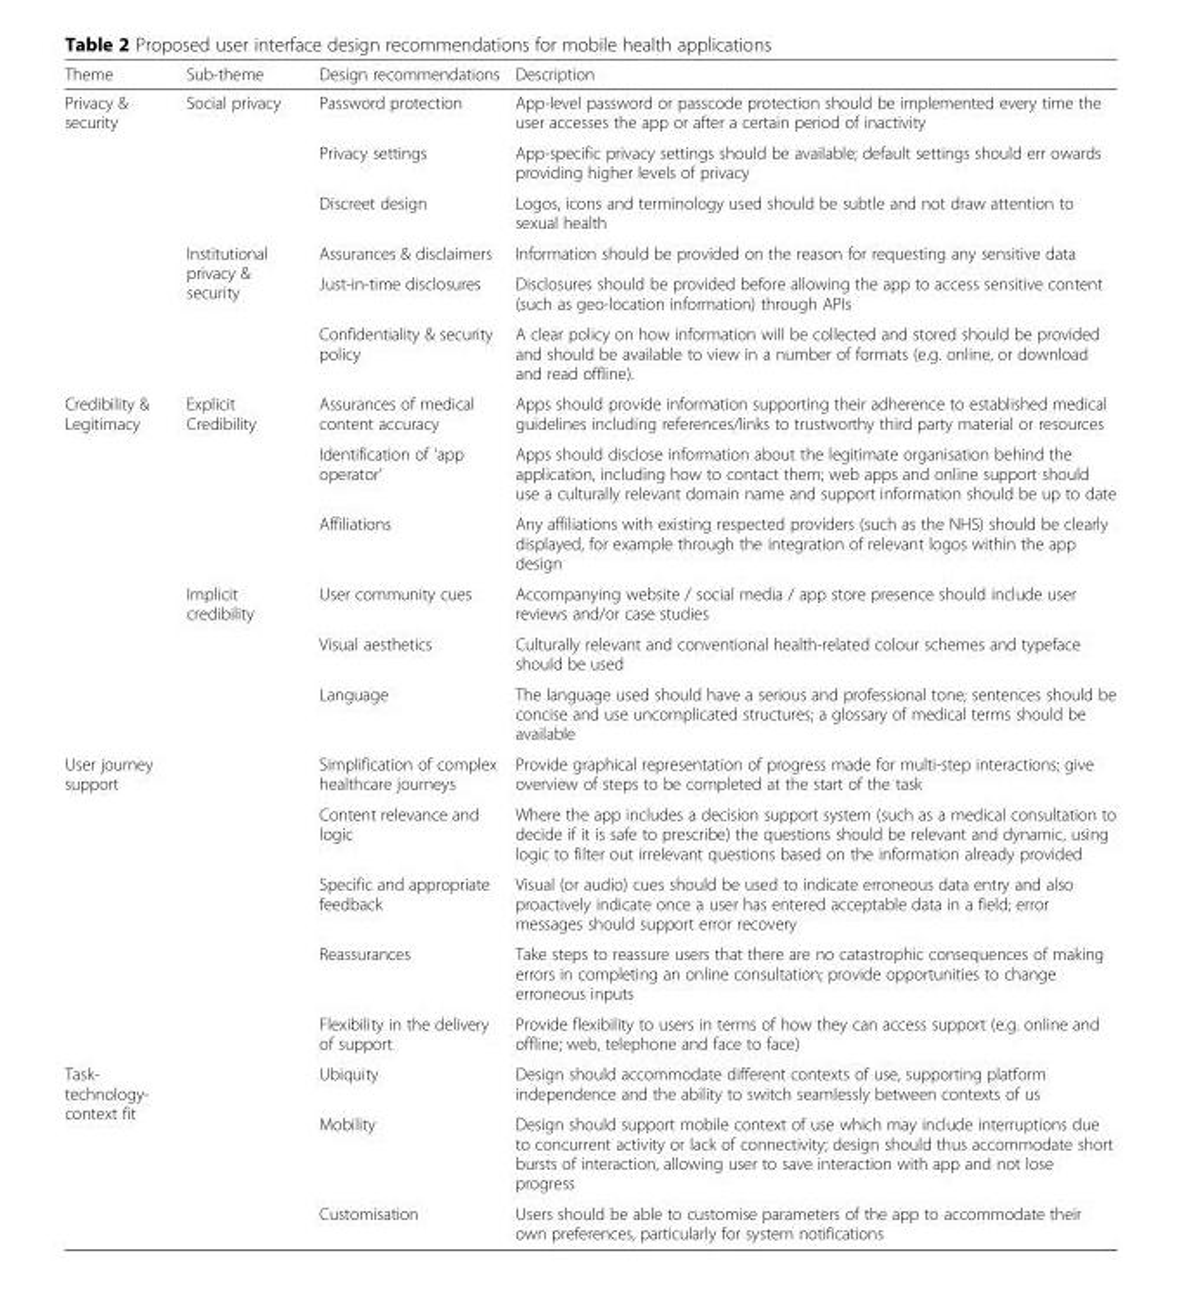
<table><thead><tr><td>Theme</td><td>Sub-theme</td><td>Design recommendations</td><td>Description</td></tr></thead><tbody><tr><td rowspan="6">Privacy &amp; security</td><td rowspan="3">Social privacy</td><td>Password protection</td><td>App-level password or passcode protection should be implemented every time the user accesses the app or after a certain period of inactivity</td></tr><tr><td>Privacy settings</td><td>App-specific privacy settings should be available; default settings should err owards providing higher levels of privacy</td></tr><tr><td>Discreet design</td><td>Logos, icons and terminology used should be subtle and not draw attention to sexual health</td></tr><tr><td rowspan="3">Institutional privacy &amp; security</td><td>Assurances &amp; disclaimers</td><td>Information should be provided on the reason for requesting any sensitive data</td></tr><tr><td>Just-in-time disclosures</td><td>Disclosures should be provided before allowing the app to access sensitive content (such as geo-location information) through APIs</td></tr><tr><td>Confidentiality &amp; security policy</td><td>A clear policy on how information will be collected and stored should be provided and should be available to view in a number of formats (e.g. online, or download and read offline).</td></tr><tr><td rowspan="6">Credibility &amp; Legitimacy</td><td rowspan="3">Explicit Credibility</td><td>Assurances of medical content accuracy</td><td>Apps should provide information supporting their adherence to established medical guidelines including references/links to trustworthy third party material or resources</td></tr><tr><td>Identification of ‘app operator’</td><td>Apps should disclose information about the legitimate organisation behind the application, including how to contact them; web apps and online support should use a culturally relevant domain name and support information should be up to date</td></tr><tr><td>Affiliations</td><td>Any affiliations with existing respected providers (such as the NHS) should be clearly displayed, for example through the integration of relevant logos within the app design</td></tr><tr><td rowspan="3">Implicit credibility</td><td>User community cues</td><td>Accompanying website / social media / app store presence should include user reviews and/or case studies</td></tr><tr><td>Visual aesthetics</td><td>Culturally relevant and conventional health-related colour schemes and typeface should be used</td></tr><tr><td>Language</td><td>The language used should have a serious and professional tone; sentences should be concise and use uncomplicated structures; a glossary of medical terms should be available</td></tr><tr><td rowspan="5">User journey support</td><td rowspan="5"></td><td>Simplification of complex healthcare journeys</td><td>Provide graphical representation of progress made for multi-step interactions; give overview of steps to be completed at the start of the task</td></tr><tr><td>Content relevance and logic</td><td>Where the app includes a decision support system (such as a medical consultation to decide if it is safe to prescribe) the questions should be relevant and dynamic, using logic to filter out irrelevant questions based on the information already provided</td></tr><tr><td>Specific and appropriate feedback</td><td>Visual (or audio) cues should be used to indicate erroneous data entry and also proactively indicate once a user has entered acceptable data in a field; error messages should support error recovery</td></tr><tr><td>Reassurances</td><td>Take steps to reassure users that there are no catastrophic consequences of making errors in completing an online consultation; provide opportunities to change erroneous inputs</td></tr><tr><td>Flexibility in the delivery of support</td><td>Provide flexibility to users in terms of how they can access support (e.g. online and offline; web, telephone and face to face)</td></tr><tr><td rowspan="3">Task- technology- context fit</td><td rowspan="3"></td><td>Ubiquity</td><td>Design should accommodate different contexts of use, supporting platform independence and the ability to switch seamlessly between contexts of us</td></tr><tr><td>Mobility</td><td>Design should support mobile context of use which may include interruptions due to concurrent activity or lack of connectivity; design should thus accommodate short bursts of interaction, allowing user to save interaction with app and not lose progress</td></tr><tr><td>Customisation</td><td>Users should be able to customise parameters of the app to accommodate their own preferences, particularly for system notifications</td></tr></tbody></table>